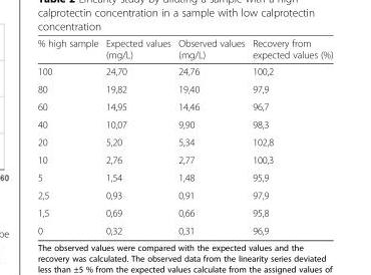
<table><thead><tr><td>% high sample</td><td>Expected values (mg/L)</td><td>Observed values (mg/L)</td><td>Recovery from expected values (%)</td></tr></thead><tbody><tr><td>100</td><td>24,70</td><td>24,76</td><td>100,2</td></tr><tr><td>80</td><td>19,82</td><td>19,40</td><td>97,9</td></tr><tr><td>60</td><td>14,95</td><td>14,46</td><td>96,7</td></tr><tr><td>40</td><td>10,07</td><td>9,90</td><td>98,3</td></tr><tr><td>20</td><td>5,20</td><td>5,34</td><td>102,8</td></tr><tr><td>10</td><td>2,76</td><td>2,77</td><td>100,3</td></tr><tr><td>5</td><td>1,54</td><td>1,48</td><td>95,9</td></tr><tr><td>2,5</td><td>0,93</td><td>0,91</td><td>97,9</td></tr><tr><td>1,5</td><td>0,69</td><td>0,66</td><td>95,8</td></tr><tr><td>0</td><td>0,32</td><td>0,31</td><td>96,9</td></tr></tbody></table>